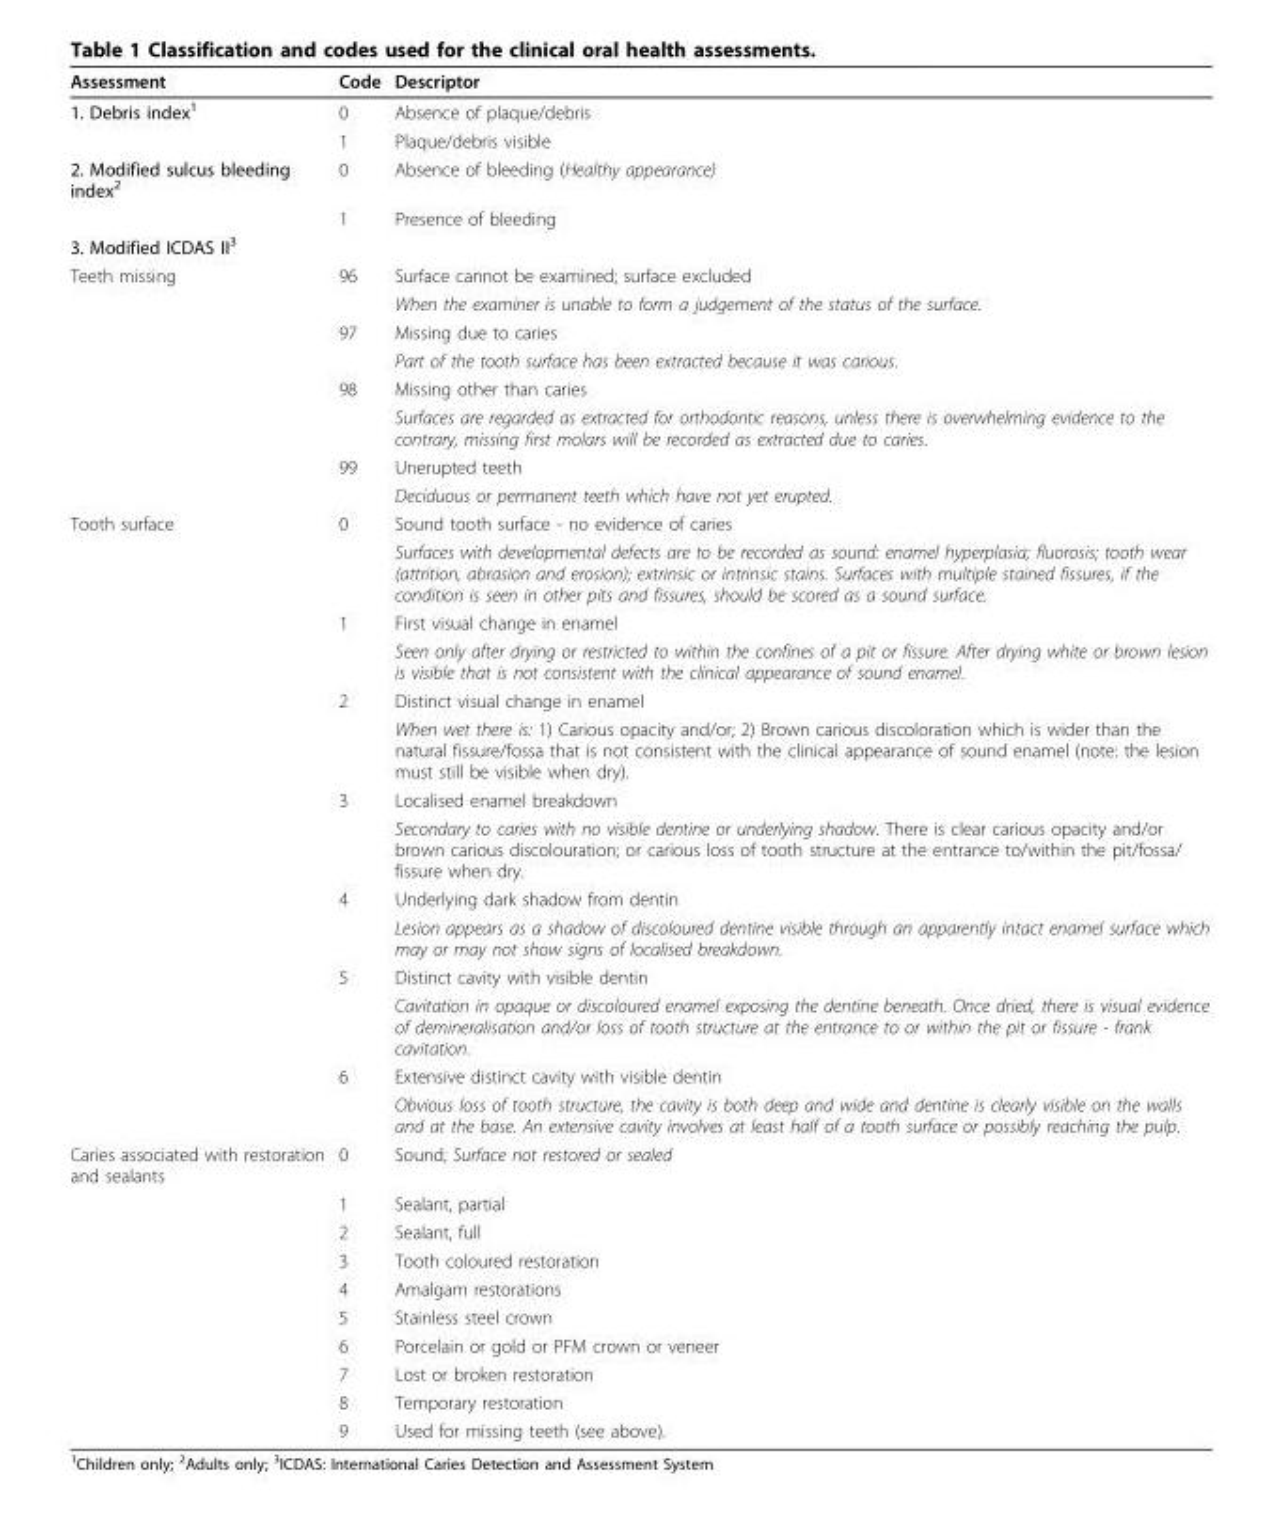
<table><thead><tr><td>Assessment</td><td>Code</td><td>Descriptor</td></tr></thead><tbody><tr><td rowspan="2">1. Debris index<sup>1</sup></td><td>0</td><td>Absence of plaque/debris</td></tr><tr><td>1</td><td>Plaque/debris visible</td></tr><tr><td rowspan="2">2. Modified sulcus bleeding index<sup>2</sup></td><td>0</td><td>Absence of bleeding (Healthy appearance)</td></tr><tr><td>1</td><td>Presence of bleeding</td></tr><tr><td colspan="3">3. Modified ICDAS II<sup>3</sup></td></tr><tr><td rowspan="8">Teeth missing</td><td>96</td><td>Surface cannot be examined; surface excluded</td></tr><tr><td></td><td>When the examiner is unable to form a judgement of the status of the surface.</td></tr><tr><td>97</td><td>Missing due to caries</td></tr><tr><td></td><td>Part of the tooth surface has been extracted because it was carious.</td></tr><tr><td>98</td><td>Missing other than caries</td></tr><tr><td></td><td>Surfaces are regarded as extracted for orthodontic reasons, unless there is overwhelming evidence to the contrary, missing first molars will be recorded as extracted due to caries.</td></tr><tr><td>99</td><td>Unerupted teeth</td></tr><tr><td></td><td>Deciduous or permanent teeth which have not yet erupted.</td></tr><tr><td rowspan="14">Tooth surface</td><td>0</td><td>Sound tooth surface - no evidence of caries</td></tr><tr><td></td><td>Surfaces with developmental defects are to be recorded as sound: enamel hyperplasia; fluorosis; tooth wear (attrition, abrasion and erosion); extrinsic or intrinsic stains. Surfaces with multiple stained fissures, if the condition is seen in other pits and fissures, should be scored as a sound surface.</td></tr><tr><td>1</td><td>First visual change in enamel</td></tr><tr><td></td><td>Seen only after drying or restricted to within the confines of a pit or fissure. After drying white or brown lesion is visible that is not consistent with the clinical appearance of sound enamel.</td></tr><tr><td>2</td><td>Distinct visual change in enamel</td></tr><tr><td></td><td>When wet there is: 1) Carious opacity and/or; 2) Brown carious discoloration which is wider than the natural fissure/fossa that is not consistent with the clinical appearance of sound enamel (note: the lesion must still be visible when dry).</td></tr><tr><td>3</td><td>Localised enamel breakdown</td></tr><tr><td></td><td>Secondary to caries with no visible dentine or underlying shadow. There is clear carious opacity and/or brown carious discolouration; or carious loss of tooth structure at the entrance to/within the pit/fossa/ fissure when dry.</td></tr><tr><td>4</td><td>Underlying dark shadow from dentin</td></tr><tr><td></td><td>Lesion appears as a shadow of discoloured dentine visible through an apparently intact enamel surface which may or may not show signs of localised breakdown.</td></tr><tr><td>5</td><td>Distinct cavity with visible dentin</td></tr><tr><td></td><td>Cavitation in opaque or discoloured enamel exposing the dentine beneath. Once dried, there is visual evidence of demineralisation and/or loss of tooth structure at the entrance to or within the pit or fissure - frank cavitation.</td></tr><tr><td>6</td><td>Extensive distinct cavity with visible dentin</td></tr><tr><td></td><td>Obvious loss of tooth structure, the cavity is both deep and wide and dentine is clearly visible on the walls and at the base. An extensive cavity involves at least half of a tooth surface or possibly reaching the pulp.</td></tr><tr><td rowspan="10">Caries associated with restoration and sealants</td><td>0</td><td>Sound; Surface not restored or sealed</td></tr><tr><td>1</td><td>Sealant, partial</td></tr><tr><td>2</td><td>Sealant, full</td></tr><tr><td>3</td><td>Tooth coloured restoration</td></tr><tr><td>4</td><td>Amalgam restorations</td></tr><tr><td>5</td><td>Stainless steel crown</td></tr><tr><td>6</td><td>Porcelain or gold or PFM crown or veneer</td></tr><tr><td>7</td><td>Lost or broken restoration</td></tr><tr><td>8</td><td>Temporary restoration</td></tr><tr><td>9</td><td>Used for missing teeth (see above).</td></tr></tbody></table>